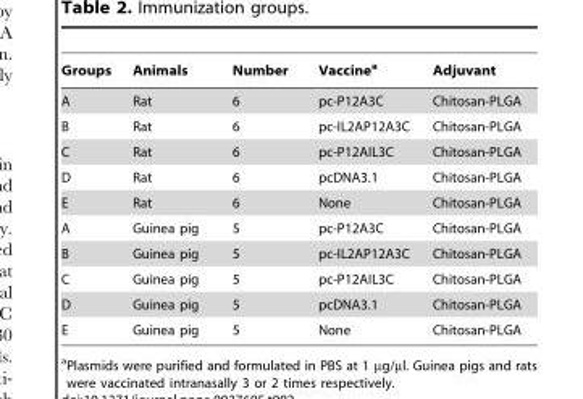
<table><thead><tr><td>Groups</td><td>Animals</td><td>Number</td><td>Vaccine<sup>a</sup></td><td>Adjuvant</td></tr></thead><tbody><tr><td>A</td><td>Rat</td><td>6</td><td>pc-P12A3C</td><td>Chitosan-PLGA</td></tr><tr><td>B</td><td>Rat</td><td>6</td><td>pc-IL2AP12A3C</td><td>Chitosan-PLGA</td></tr><tr><td>C</td><td>Rat</td><td>6</td><td>pc-P12AIL3C</td><td>Chitosan-PLGA</td></tr><tr><td>D</td><td>Rat</td><td>6</td><td>pcDNA3.1</td><td>Chitosan-PLGA</td></tr><tr><td>E</td><td>Rat</td><td>6</td><td>None</td><td>Chitosan-PLGA</td></tr><tr><td>A</td><td>Guinea pig</td><td>5</td><td>pc-P12A3C</td><td>Chitosan-PLGA</td></tr><tr><td>B</td><td>Guinea pig</td><td>5</td><td>pc-IL2AP12A3C</td><td>Chitosan-PLGA</td></tr><tr><td>C</td><td>Guinea pig</td><td>5</td><td>pc-P12AIL3C</td><td>Chitosan-PLGA</td></tr><tr><td>D</td><td>Guinea pig</td><td>5</td><td>pcDNA3.1</td><td>Chitosan-PLGA</td></tr><tr><td>E</td><td>Guinea pig</td><td>5</td><td>None</td><td>Chitosan-PLGA</td></tr></tbody></table>